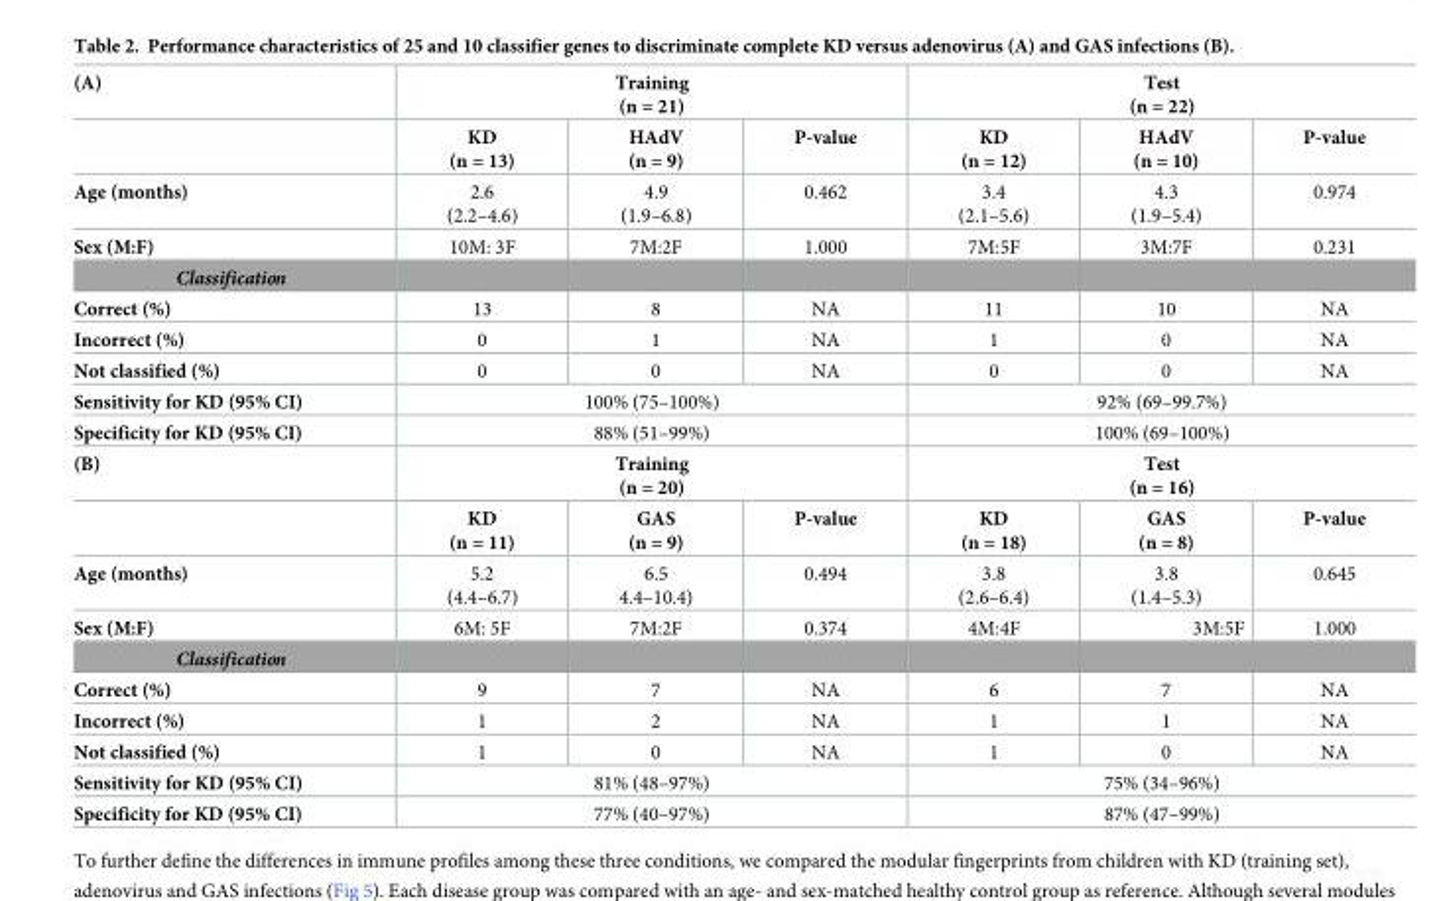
<table><tbody><tr><td rowspan="2">(A)</td><td colspan="3">Training (n = 21)</td><td colspan="3">Test (n = 22)</td></tr><tr><td>KD (n = 13)</td><td>HAdV (n = 9)</td><td>P-value</td><td>KD (n = 12)</td><td>HAdV (n = 10)</td><td>P-value</td></tr><tr><td>Age (months)</td><td>2.6 (2.2–4.6)</td><td>4.9 (1.9–6.8)</td><td>0.462</td><td>3.4 (2.1–5.6)</td><td>4.3 (1.9–5.4)</td><td>0.974</td></tr><tr><td>Sex (M:F)</td><td>10M: 3F</td><td>7M:2F</td><td>1.000</td><td>7M:5F</td><td>3M:7F</td><td>0.231</td></tr><tr><td colspan="7">Classification</td></tr><tr><td>Correct (%)</td><td>13</td><td>8</td><td>NA</td><td>11</td><td>10</td><td>NA</td></tr><tr><td>Incorrect (%)</td><td>0</td><td>1</td><td>NA</td><td>1</td><td>0</td><td>NA</td></tr><tr><td>Not classified (%)</td><td>0</td><td>0</td><td>NA</td><td>0</td><td>0</td><td>NA</td></tr><tr><td>Sensitivity for KD (95% CI)</td><td colspan="3">100% (75–100%)</td><td colspan="3">92% (69–99.7%)</td></tr><tr><td>Specificity for KD (95% CI)</td><td colspan="3">88% (51–99%)</td><td colspan="3">100% (69–100%)</td></tr><tr><td rowspan="2">(B)</td><td colspan="3">Training (n = 20)</td><td colspan="3">Test (n = 16)</td></tr><tr><td>KD (n = 11)</td><td>GAS (n = 9)</td><td>P-value</td><td>KD (n = 18)</td><td>GAS (n = 8)</td><td>P-value</td></tr><tr><td>Age (months)</td><td>5.2 (4.4–6.7)</td><td>6.5 4.4–10.4)</td><td>0.494</td><td>3.8 (2.6–6.4)</td><td>3.8 (1.4–5.3)</td><td>0.645</td></tr><tr><td>Sex (M:F)</td><td>6M: 5F</td><td>7M:2F</td><td>0.374</td><td>4M:4F</td><td>3M:5F</td><td>1.000</td></tr><tr><td colspan="7">Classification</td></tr><tr><td>Correct (%)</td><td>9</td><td>7</td><td>NA</td><td>6</td><td>7</td><td>NA</td></tr><tr><td>Incorrect (%)</td><td>1</td><td>2</td><td>NA</td><td>1</td><td>1</td><td>NA</td></tr><tr><td>Not classified (%)</td><td>1</td><td>0</td><td>NA</td><td>1</td><td>0</td><td>NA</td></tr><tr><td>Sensitivity for KD (95% CI)</td><td colspan="3">81% (48–97%)</td><td colspan="3">75% (34–96%)</td></tr><tr><td>Specificity for KD (95% CI)</td><td colspan="3">77% (40–97%)</td><td colspan="3">87% (47–99%)</td></tr></tbody></table>